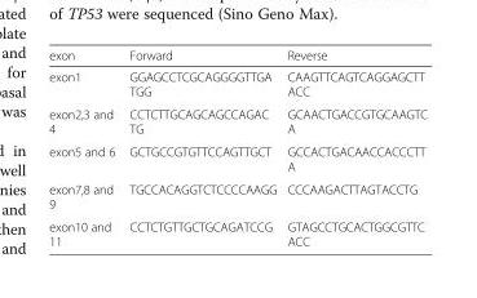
<table><thead><tr><td>exon</td><td>Forward</td><td>Reverse</td></tr></thead><tbody><tr><td>exon1</td><td>GGAGCCTCGCAGGGGTTGA TGG</td><td>CAAGTTCAGTCAGGAGCTT ACC</td></tr><tr><td>exon2,3 and 4</td><td>CCTCTTGCAGCAGCCAGAC TG</td><td>GCAACTGACCGTGCAAGTC A</td></tr><tr><td>exon5 and 6</td><td>GCTGCCGTGTTCCAGTTGCT</td><td>GCCACTGACAACCACCCTT A</td></tr><tr><td>exon7,8 and 9</td><td>TGCCACAGGTCTCCCCAAGG</td><td>CCCAAGACTTAGTACCTG</td></tr><tr><td>exon10 and 11</td><td>CCTCTGTTGCTGCAGATCCG</td><td>GTAGCCTGCACTGGCGTTC ACC</td></tr></tbody></table>